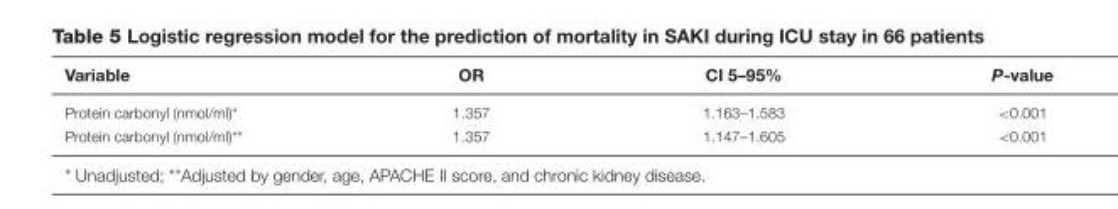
<table><thead><tr><td>Variable</td><td>OR</td><td>CI 5–95%</td><td>P-value</td></tr></thead><tbody><tr><td>Protein carbonyl (nmol/ml)*</td><td>1.357</td><td>1.163–1.583</td><td>&lt;0.001</td></tr><tr><td>Protein carbonyl (nmol/ml)**</td><td>1.357</td><td>1.147–1.605</td><td>&lt;0.001</td></tr></tbody></table>